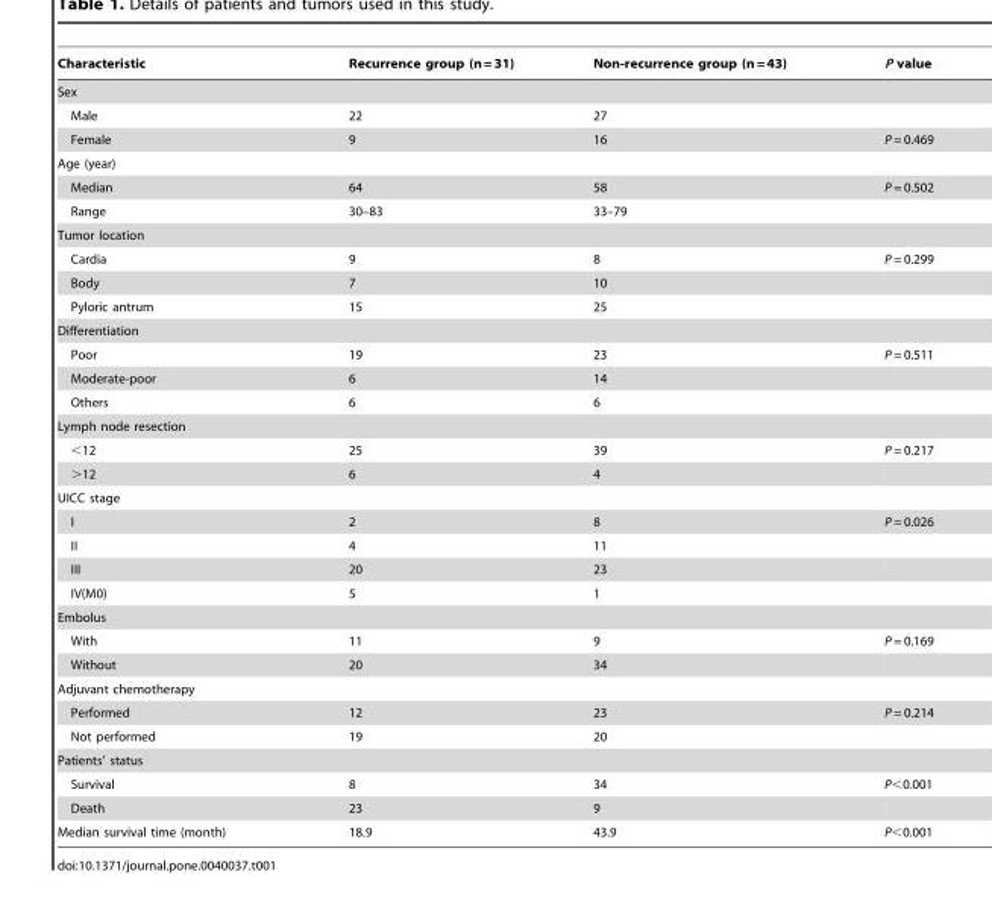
<table><thead><tr><td>Characteristic</td><td>Recurrence group (n = 31)</td><td>Non-recurrence group (n = 43)</td><td>P value</td></tr></thead><tbody><tr><td colspan="4">Sex</td></tr><tr><td>Male</td><td>22</td><td>27</td><td></td></tr><tr><td>Female</td><td>9</td><td>16</td><td>P = 0.469</td></tr><tr><td colspan="4">Age (year)</td></tr><tr><td>Median</td><td>64</td><td>58</td><td>P = 0.502</td></tr><tr><td>Range</td><td>30–83</td><td>33–79</td><td></td></tr><tr><td colspan="4">Tumor location</td></tr><tr><td>Cardia</td><td>9</td><td>8</td><td>P = 0.299</td></tr><tr><td>Body</td><td>7</td><td>10</td><td></td></tr><tr><td>Pyloric antrum</td><td>15</td><td>25</td><td></td></tr><tr><td colspan="4">Differentiation</td></tr><tr><td>Poor</td><td>19</td><td>23</td><td>P = 0.511</td></tr><tr><td>Moderate-poor</td><td>6</td><td>14</td><td></td></tr><tr><td>Others</td><td>6</td><td>6</td><td></td></tr><tr><td colspan="4">Lymph node resection</td></tr><tr><td>&lt;12</td><td>25</td><td>39</td><td>P = 0.217</td></tr><tr><td>&gt;12</td><td>6</td><td>4</td><td></td></tr><tr><td colspan="4">UICC stage</td></tr><tr><td>I</td><td>2</td><td>8</td><td>P = 0.026</td></tr><tr><td>II</td><td>4</td><td>11</td><td></td></tr><tr><td>III</td><td>20</td><td>23</td><td></td></tr><tr><td>IV(M0)</td><td>5</td><td>1</td><td></td></tr><tr><td colspan="4">Embolus</td></tr><tr><td>With</td><td>11</td><td>9</td><td>P = 0.169</td></tr><tr><td>Without</td><td>20</td><td>34</td><td></td></tr><tr><td colspan="4">Adjuvant chemotherapy</td></tr><tr><td>Performed</td><td>12</td><td>23</td><td>P = 0.214</td></tr><tr><td>Not performed</td><td>19</td><td>20</td><td></td></tr><tr><td colspan="4">Patients’ status</td></tr><tr><td>Survival</td><td>8</td><td>34</td><td>P&lt;0.001</td></tr><tr><td>Death</td><td>23</td><td>9</td><td></td></tr><tr><td>Median survival time (month)</td><td>18.9</td><td>43.9</td><td>P&lt;0.001</td></tr></tbody></table>